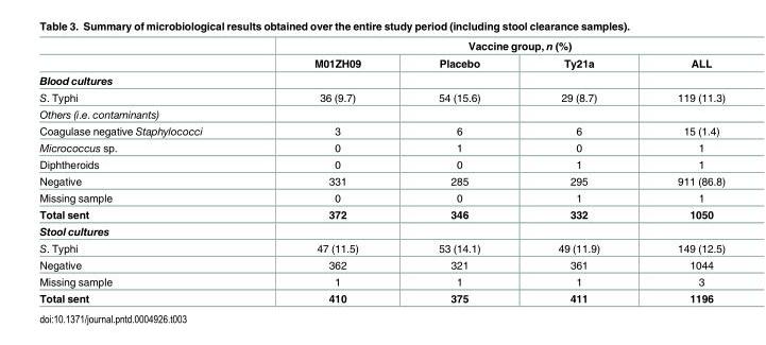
<table><thead><tr><td rowspan="2"></td><td colspan="4">Vaccine group, n (%)</td></tr><tr><td>M01ZH09</td><td>Placebo</td><td>Ty21a</td><td>ALL</td></tr></thead><tbody><tr><td colspan="5">Blood cultures</td></tr><tr><td>S. Typhi</td><td>36 (9.7)</td><td>54 (15.6)</td><td>29 (8.7)</td><td>119 (11.3)</td></tr><tr><td colspan="5">Others (i.e. contaminants)</td></tr><tr><td>Coagulase negative Staphylococci</td><td>3</td><td>6</td><td>6</td><td>15 (1.4)</td></tr><tr><td>Micrococcus sp.</td><td>0</td><td>1</td><td>0</td><td>1</td></tr><tr><td>Diphtheroids</td><td>0</td><td>0</td><td>1</td><td>1</td></tr><tr><td>Negative</td><td>331</td><td>285</td><td>295</td><td>911 (86.8)</td></tr><tr><td>Missing sample</td><td>0</td><td>0</td><td>1</td><td>1</td></tr><tr><td>Total sent</td><td>372</td><td>346</td><td>332</td><td>1050</td></tr><tr><td colspan="5">Stool cultures</td></tr><tr><td>S. Typhi</td><td>47 (11.5)</td><td>53 (14.1)</td><td>49 (11.9)</td><td>149 (12.5)</td></tr><tr><td>Negative</td><td>362</td><td>321</td><td>361</td><td>1044</td></tr><tr><td>Missing sample</td><td>1</td><td>1</td><td>1</td><td>3</td></tr><tr><td>Total sent</td><td>410</td><td>375</td><td>411</td><td>1196</td></tr></tbody></table>